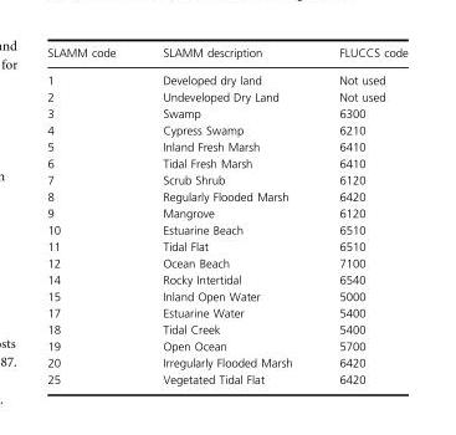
<table><thead><tr><td>SLAMM code</td><td>SLAMM description</td><td>FLUCCS code</td></tr></thead><tbody><tr><td>1</td><td>Developed dry land</td><td>Not used</td></tr><tr><td>2</td><td>Undeveloped Dry Land</td><td>Not used</td></tr><tr><td>3</td><td>Swamp</td><td>6300</td></tr><tr><td>4</td><td>Cypress Swamp</td><td>6210</td></tr><tr><td>5</td><td>Inland Fresh Marsh</td><td>6410</td></tr><tr><td>6</td><td>Tidal Fresh Marsh</td><td>6410</td></tr><tr><td>7</td><td>Scrub Shrub</td><td>6120</td></tr><tr><td>8</td><td>Regularly Flooded Marsh</td><td>6420</td></tr><tr><td>9</td><td>Mangrove</td><td>6120</td></tr><tr><td>10</td><td>Estuarine Beach</td><td>6510</td></tr><tr><td>11</td><td>Tidal Flat</td><td>6510</td></tr><tr><td>12</td><td>Ocean Beach</td><td>7100</td></tr><tr><td>14</td><td>Rocky Intertidal</td><td>6540</td></tr><tr><td>15</td><td>Inland Open Water</td><td>5000</td></tr><tr><td>17</td><td>Estuarine Water</td><td>5400</td></tr><tr><td>18</td><td>Tidal Creek</td><td>5400</td></tr><tr><td>19</td><td>Open Ocean</td><td>5700</td></tr><tr><td>20</td><td>Irregularly Flooded Marsh</td><td>6420</td></tr><tr><td>25</td><td>Vegetated Tidal Flat</td><td>6420</td></tr></tbody></table>